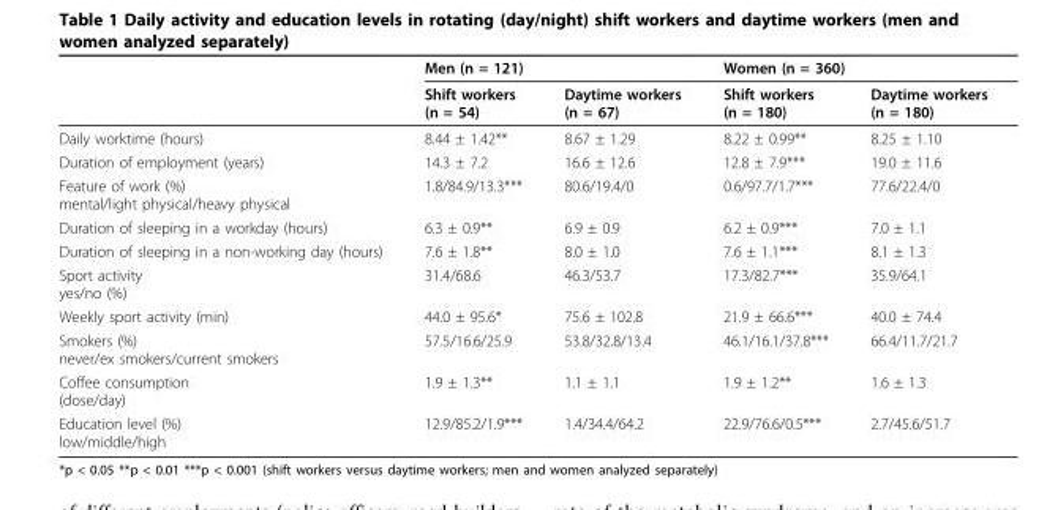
<table><thead><tr><td rowspan="2"></td><td colspan="2">Men (n = 121)</td><td colspan="2">Women (n = 360)</td></tr><tr><td>Shift workers (n = 54)</td><td>Daytime workers (n = 67)</td><td>Shift workers (n = 180)</td><td>Daytime workers (n = 180)</td></tr></thead><tbody><tr><td>Daily worktime (hours)</td><td>8.44 ± 1.42**</td><td>8.67 ± 1.29</td><td>8.22 ± 0.99**</td><td>8.25 ± 1.10</td></tr><tr><td>Duration of employment (years)</td><td>14.3 ± 7.2</td><td>16.6 ± 12.6</td><td>12.8 ± 7.9***</td><td>19.0 ± 11.6</td></tr><tr><td>Feature of work (%) mental/light physical/heavy physical</td><td>1.8/84.9/13.3***</td><td>80.6/19.4/0</td><td>0.6/97.7/1.7***</td><td>77.6/22.4/0</td></tr><tr><td>Duration of sleeping in a workday (hours)</td><td>6.3 ± 0.9**</td><td>6.9 ± 0.9</td><td>6.2 ± 0.9***</td><td>7.0 ± 1.1</td></tr><tr><td>Duration of sleeping in a non-working day (hours)</td><td>7.6 ± 1.8**</td><td>8.0 ± 1.0</td><td>7.6 ± 1.1***</td><td>8.1 ± 1.3</td></tr><tr><td>Sport activity yes/no (%)</td><td>31.4/68.6</td><td>46.3/53.7</td><td>17.3/82.7***</td><td>35.9/64.1</td></tr><tr><td>Weekly sport activity (min)</td><td>44.0 ± 95.6*</td><td>75.6 ± 102.8</td><td>21.9 ± 66.6***</td><td>40.0 ± 74.4</td></tr><tr><td>Smokers (%) never/ex smokers/current smokers</td><td>57.5/16.6/25.9</td><td>53.8/32.8/13.4</td><td>46.1/16.1/37.8***</td><td>66.4/11.7/21.7</td></tr><tr><td>Coffee consumption (dose/day)</td><td>1.9 ± 1.3**</td><td>1.1 ± 1.1</td><td>1.9 ± 1.2**</td><td>1.6 ± 1.3</td></tr><tr><td>Education level (%) low/middle/high</td><td>12.9/85.2/1.9***</td><td>1.4/34.4/64.2</td><td>22.9/76.6/0.5***</td><td>2.7/45.6/51.7</td></tr></tbody></table>